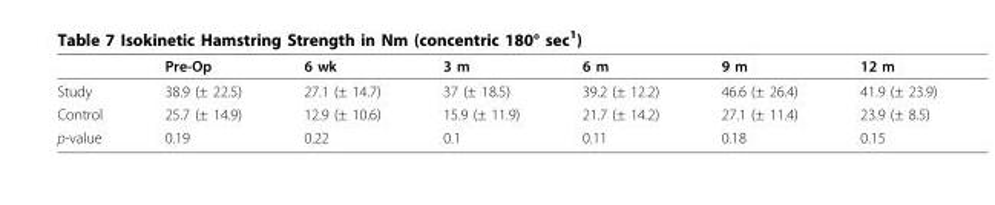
<table><thead><tr><td></td><td>Pre-Op</td><td>6 wk</td><td>3 m</td><td>6 m</td><td>9 m</td><td>12 m</td></tr></thead><tbody><tr><td>Study</td><td>38.9 (± 22.5)</td><td>27.1 (± 14.7)</td><td>37 (± 18.5)</td><td>39.2 (± 12.2)</td><td>46.6 (± 26.4)</td><td>41.9 (± 23.9)</td></tr><tr><td>Control</td><td>25.7 (± 14.9)</td><td>12.9 (± 10.6)</td><td>15.9 (± 11.9)</td><td>21.7 (± 14.2)</td><td>27.1 (± 11.4)</td><td>23.9 (± 8.5)</td></tr><tr><td>p-value</td><td>0.19</td><td>0.22</td><td>0.1</td><td>0.11</td><td>0.18</td><td>0.15</td></tr></tbody></table>